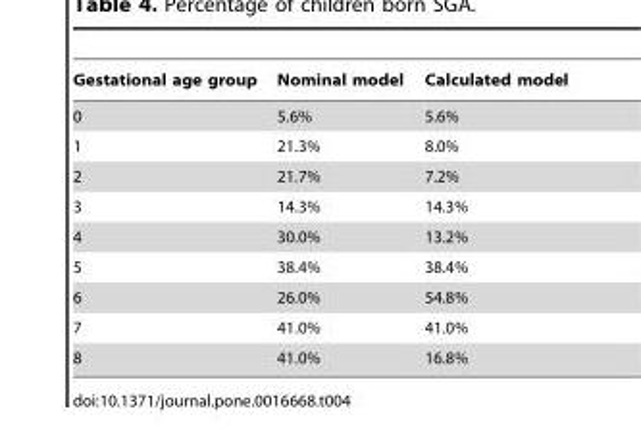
<table><thead><tr><td>Gestational age group</td><td>Nominal model</td><td>Calculated model</td></tr></thead><tbody><tr><td>0</td><td>5.6%</td><td>5.6%</td></tr><tr><td>1</td><td>21.3%</td><td>8.0%</td></tr><tr><td>2</td><td>21.7%</td><td>7.2%</td></tr><tr><td>3</td><td>14.3%</td><td>14.3%</td></tr><tr><td>4</td><td>30.0%</td><td>13.2%</td></tr><tr><td>5</td><td>38.4%</td><td>38.4%</td></tr><tr><td>6</td><td>26.0%</td><td>54.8%</td></tr><tr><td>7</td><td>41.0%</td><td>41.0%</td></tr><tr><td>8</td><td>41.0%</td><td>16.8%</td></tr></tbody></table>